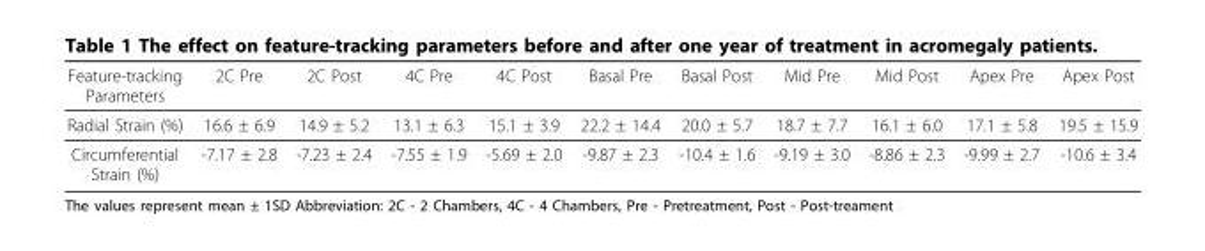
<table><thead><tr><td>Feature-tracking Parameters</td><td>2C Pre</td><td>2C Post</td><td>4C Pre</td><td>4C Post</td><td>Basal Pre</td><td>Basal Post</td><td>Mid Pre</td><td>Mid Post</td><td>Apex Pre</td><td>Apex Post</td></tr></thead><tbody><tr><td>Radial Strain (%)</td><td>16.6 ± 6.9</td><td>14.9 ± 5.2</td><td>13.1 ± 6.3</td><td>15.1 ± 3.9</td><td>22.2 ± 14.4</td><td>20.0 ± 5.7</td><td>18.7 ± 7.7</td><td>16.1 ± 6.0</td><td>17.1 ± 5.8</td><td>19.5 ± 15.9</td></tr><tr><td>Circumferential Strain (%)</td><td>-7.17 ± 2.8</td><td>-7.23 ± 2.4</td><td>-7.55 ± 1.9</td><td>-5.69 ± 2.0</td><td>-9.87 ± 2.3</td><td>-10.4 ± 1.6</td><td>-9.19 ± 3.0</td><td>-8.86 ± 2.3</td><td>-9.99 ± 2.7</td><td>-10.6 ± 3.4</td></tr></tbody></table>